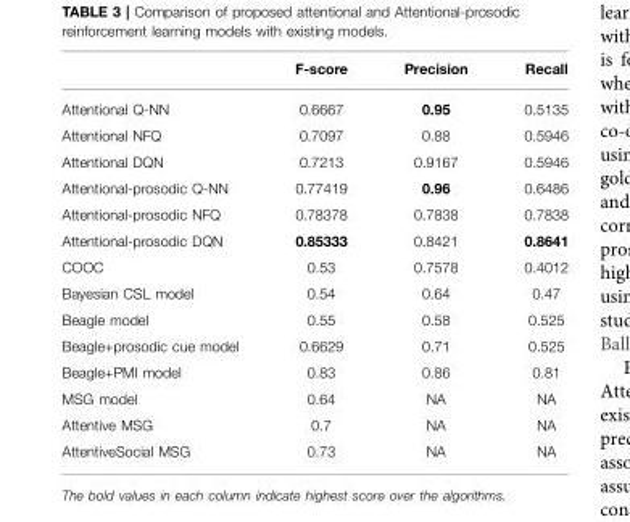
<table><thead><tr><td></td><td>F-score</td><td>Precision</td><td>Recall</td></tr></thead><tbody><tr><td>Attentional Q-NN</td><td>0.6667</td><td>0.95</td><td>0.5135</td></tr><tr><td>Attentional NFQ</td><td>0.7097</td><td>0.88</td><td>0.5946</td></tr><tr><td>Attentional DQN</td><td>0.7213</td><td>0.9167</td><td>0.5946</td></tr><tr><td>Attentional-prosodic Q-NN</td><td>0.77419</td><td>0.96</td><td>0.6486</td></tr><tr><td>Attentional-prosodic NFQ</td><td>0.78378</td><td>0.7838</td><td>0.7838</td></tr><tr><td>Attentional-prosodic DQN</td><td>0.85333</td><td>0.8421</td><td>0.8641</td></tr><tr><td>COOC</td><td>0.53</td><td>0.7578</td><td>0.4012</td></tr><tr><td>Bayesian CSL model</td><td>0.54</td><td>0.64</td><td>0.47</td></tr><tr><td>Beagle model</td><td>0.55</td><td>0.58</td><td>0.525</td></tr><tr><td>Beagle+prosodic cue model</td><td>0.6629</td><td>0.71</td><td>0.525</td></tr><tr><td>Beagle+PMI model</td><td>0.83</td><td>0.86</td><td>0.81</td></tr><tr><td>MSG model</td><td>0.64</td><td>NA</td><td>NA</td></tr><tr><td>Attentive MSG</td><td>0.7</td><td>NA</td><td>NA</td></tr><tr><td>AttentiveSocial MSG</td><td>0.73</td><td>NA</td><td>NA</td></tr></tbody></table>